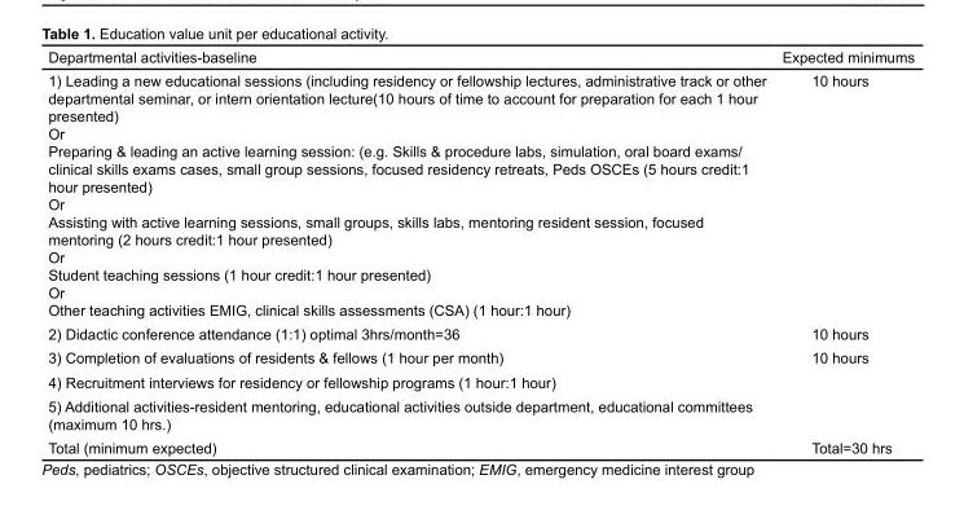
<table><thead><tr><td>Departmental activities-baseline</td><td>Expected minimums</td></tr></thead><tbody><tr><td>1) Leading a new educational sessions (including residency or fellowship lectures, administrative track or other departmental seminar, or intern orientation lecture(10 hours of time to account for preparation for each 1 hour presented) Or Preparing &amp; leading an active learning session: (e.g. Skills &amp; procedure labs, simulation, oral board exams/ clinical skills exams cases, small group sessions, focused residency retreats, Peds OSCEs (5 hours credit:1 hour presented) Or Assisting with active learning sessions, small groups, skills labs, mentoring resident session, focused mentoring (2 hours credit:1 hour presented) Or Student teaching sessions (1 hour credit:1 hour presented) Or Other teaching activities EMIG, clinical skills assessments (CSA) (1 hour:1 hour)</td><td>10 hours</td></tr><tr><td>2) Didactic conference attendance (1:1) optimal 3hrs/month=36</td><td>10 hours</td></tr><tr><td>3) Completion of evaluations of residents &amp; fellows (1 hour per month)</td><td>10 hours</td></tr><tr><td colspan="2">4) Recruitment interviews for residency or fellowship programs (1 hour:1 hour)</td></tr><tr><td colspan="2">5) Additional activities-resident mentoring, educational activities outside department, educational committees (maximum 10 hrs.)</td></tr><tr><td>Total (minimum expected)</td><td>Total=30 hrs</td></tr></tbody></table>